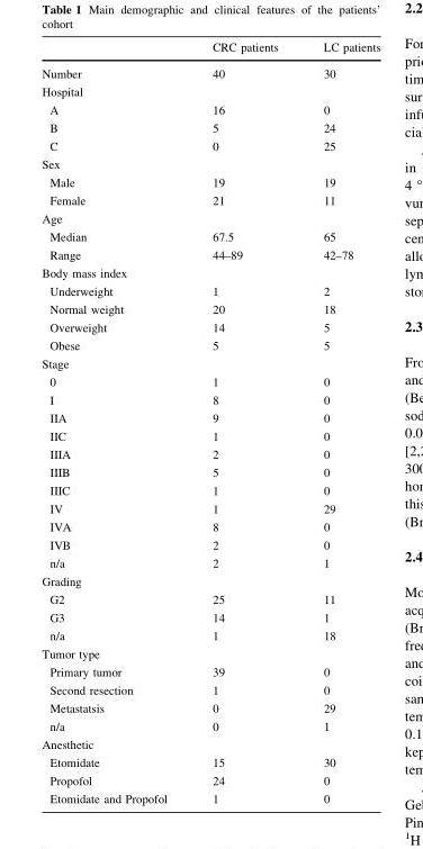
<table><thead><tr><td></td><td>CRC patients</td><td>LC patients</td></tr></thead><tbody><tr><td>Number</td><td>40</td><td>30</td></tr><tr><td colspan="3">Hospital</td></tr><tr><td>A</td><td>16</td><td>0</td></tr><tr><td>B</td><td>5</td><td>24</td></tr><tr><td>C</td><td>0</td><td>25</td></tr><tr><td colspan="3">Sex</td></tr><tr><td>Male</td><td>19</td><td>19</td></tr><tr><td>Female</td><td>21</td><td>11</td></tr><tr><td colspan="3">Age</td></tr><tr><td>Median</td><td>67.5</td><td>65</td></tr><tr><td>Range</td><td>44–89</td><td>42–78</td></tr><tr><td colspan="3">Body mass index</td></tr><tr><td>Underweight</td><td>1</td><td>2</td></tr><tr><td>Normal weight</td><td>20</td><td>18</td></tr><tr><td>Overweight</td><td>14</td><td>5</td></tr><tr><td>Obese</td><td>5</td><td>5</td></tr><tr><td colspan="3">Stage</td></tr><tr><td>0</td><td>1</td><td>0</td></tr><tr><td>I</td><td>8</td><td>0</td></tr><tr><td>IIA</td><td>9</td><td>0</td></tr><tr><td>IIC</td><td>1</td><td>0</td></tr><tr><td>IIIA</td><td>2</td><td>0</td></tr><tr><td>IIIB</td><td>5</td><td>0</td></tr><tr><td>IIIC</td><td>1</td><td>0</td></tr><tr><td>IV</td><td>1</td><td>29</td></tr><tr><td>IVA</td><td>8</td><td>0</td></tr><tr><td>IVB</td><td>2</td><td>0</td></tr><tr><td>n/a</td><td>2</td><td>1</td></tr><tr><td colspan="3">Grading</td></tr><tr><td>G2</td><td>25</td><td>11</td></tr><tr><td>G3</td><td>14</td><td>1</td></tr><tr><td>n/a</td><td>1</td><td>18</td></tr><tr><td colspan="3">Tumor type</td></tr><tr><td>Primary tumor</td><td>39</td><td>0</td></tr><tr><td>Second resection</td><td>1</td><td>0</td></tr><tr><td>Metastatsis</td><td>0</td><td>29</td></tr><tr><td>n/a</td><td>0</td><td>1</td></tr><tr><td colspan="3">Anesthetic</td></tr><tr><td>Etomidate</td><td>15</td><td>30</td></tr><tr><td>Propofol</td><td>24</td><td>0</td></tr><tr><td>Etomidate and Propofol</td><td>1</td><td>0</td></tr></tbody></table>